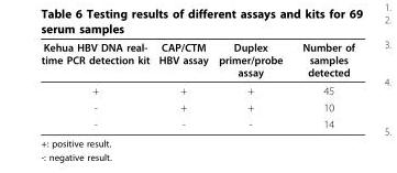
<table><thead><tr><td>Kehua HBV DNA real- time PCR detection kit</td><td>CAP/CTM HBV assay</td><td>Duplex primer/probe assay</td><td>Number of samples detected</td></tr></thead><tbody><tr><td>+</td><td>+</td><td>+</td><td>45</td></tr><tr><td>-</td><td>+</td><td>+</td><td>10</td></tr><tr><td>-</td><td>-</td><td>-</td><td>14</td></tr></tbody></table>